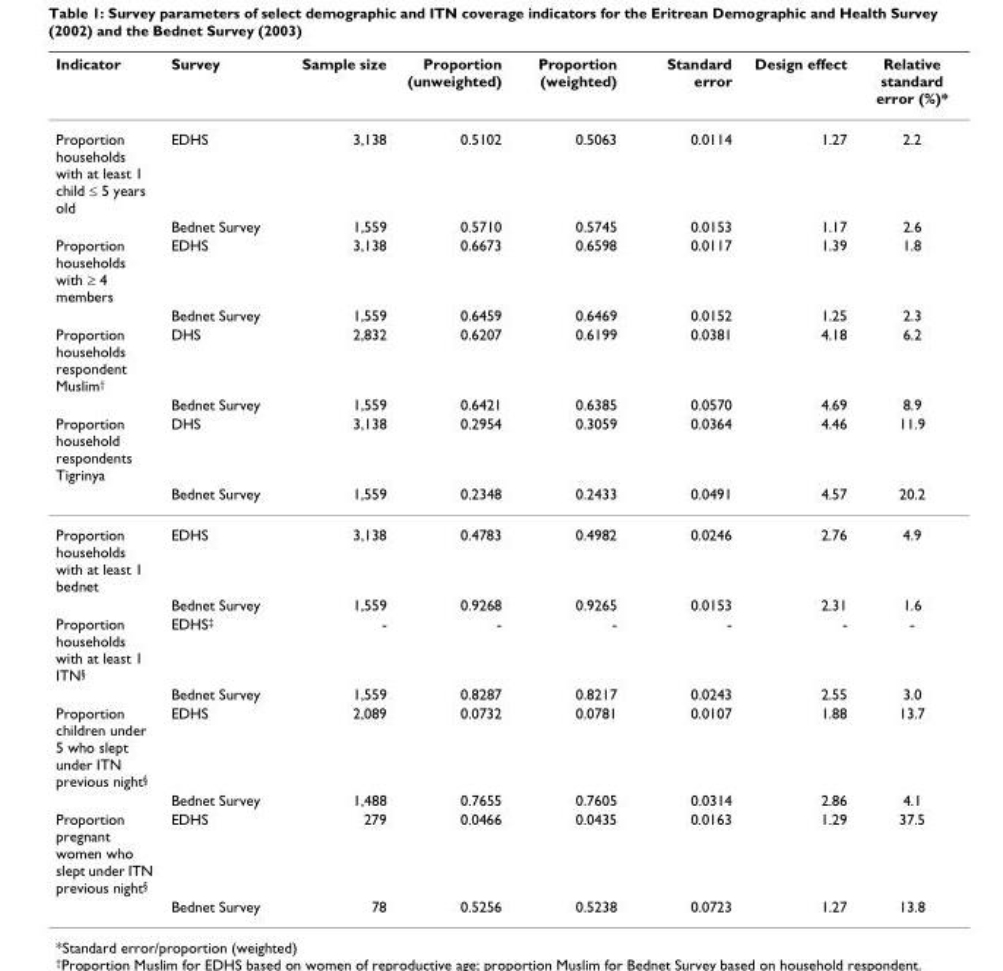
<table><thead><tr><td>Indicator</td><td>Survey</td><td>Sample size</td><td>Proportion (unweighted)</td><td>Proportion (weighted)</td><td>Standard error</td><td>Design effect</td><td>Relative standard error (%)*</td></tr></thead><tbody><tr><td rowspan="2">Proportion households with at least 1 child ≤ 5 years old</td><td>EDHS</td><td>3,138</td><td>0.5102</td><td>0.5063</td><td>0.0114</td><td>1.27</td><td>2.2</td></tr><tr><td>Bednet Survey</td><td>1,559</td><td>0.5710</td><td>0.5745</td><td>0.0153</td><td>1.17</td><td>2.6</td></tr><tr><td rowspan="2">Proportion households with ≥ 4 members</td><td>EDHS</td><td>3,138</td><td>0.6673</td><td>0.6598</td><td>0.0117</td><td>1.39</td><td>1.8</td></tr><tr><td>Bednet Survey</td><td>1,559</td><td>0.6459</td><td>0.6469</td><td>0.0152</td><td>1.25</td><td>2.3</td></tr><tr><td rowspan="2">Proportion households respondent Muslim<sup>†</sup></td><td>DHS</td><td>2,832</td><td>0.6207</td><td>0.6199</td><td>0.0381</td><td>4.18</td><td>6.2</td></tr><tr><td>Bednet Survey</td><td>1,559</td><td>0.6421</td><td>0.6385</td><td>0.0570</td><td>4.69</td><td>8.9</td></tr><tr><td rowspan="2">Proportion household respondents Tigrinya</td><td>DHS</td><td>3,138</td><td>0.2954</td><td>0.3059</td><td>0.0364</td><td>4.46</td><td>11.9</td></tr><tr><td>Bednet Survey</td><td>1,559</td><td>0.2348</td><td>0.2433</td><td>0.0491</td><td>4.57</td><td>20.2</td></tr><tr><td rowspan="2">Proportion households with at least 1 bednet</td><td>EDHS</td><td>3,138</td><td>0.4783</td><td>0.4982</td><td>0.0246</td><td>2.76</td><td>4.9</td></tr><tr><td>Bednet Survey</td><td>1,559</td><td>0.9268</td><td>0.9265</td><td>0.0153</td><td>2.31</td><td>1.6</td></tr><tr><td rowspan="2">Proportion households with at least 1 ITN<sup>§</sup></td><td>EDHS<sup>‡</sup></td><td>-</td><td>-</td><td>-</td><td>-</td><td>-</td><td>-</td></tr><tr><td>Bednet Survey</td><td>1,559</td><td>0.8287</td><td>0.8217</td><td>0.0243</td><td>2.55</td><td>3.0</td></tr><tr><td rowspan="2">Proportion children under 5 who slept under ITN previous night<sup>§</sup></td><td>EDHS</td><td>2,089</td><td>0.0732</td><td>0.0781</td><td>0.0107</td><td>1.88</td><td>13.7</td></tr><tr><td>Bednet Survey</td><td>1,488</td><td>0.7655</td><td>0.7605</td><td>0.0314</td><td>2.86</td><td>4.1</td></tr><tr><td rowspan="2">Proportion pregnant women who slept under ITN previous night<sup>§</sup></td><td>EDHS</td><td>279</td><td>0.0466</td><td>0.0435</td><td>0.0163</td><td>1.29</td><td>37.5</td></tr><tr><td>Bednet Survey</td><td>78</td><td>0.5256</td><td>0.5238</td><td>0.0723</td><td>1.27</td><td>13.8</td></tr></tbody></table>